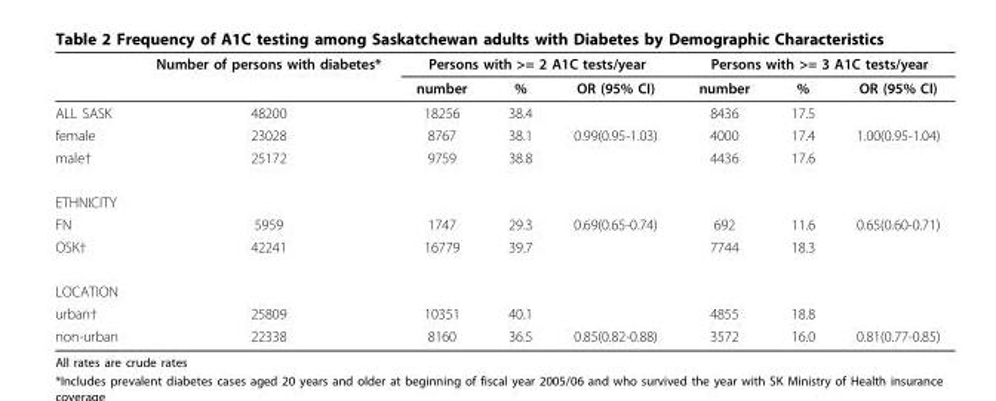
<table><thead><tr><td rowspan="2"></td><td rowspan="2">Number of persons with diabetes*</td><td colspan="3">Persons with &gt;= 2 A1C tests/year</td><td colspan="3">Persons with &gt;= 3 A1C tests/year</td></tr><tr><td>number</td><td>%</td><td>OR (95% CI)</td><td>number</td><td>%</td><td>OR (95% CI)</td></tr></thead><tbody><tr><td>ALL SASK</td><td>48200</td><td>18256</td><td>38.4</td><td></td><td>8436</td><td>17.5</td><td></td></tr><tr><td>female</td><td>23028</td><td>8767</td><td>38.1</td><td>0.99(0.95-1.03)</td><td>4000</td><td>17.4</td><td>1.00(0.95-1.04)</td></tr><tr><td>male†</td><td>25172</td><td>9759</td><td>38.8</td><td></td><td>4436</td><td>17.6</td><td></td></tr><tr><td colspan="8">ETHNICITY</td></tr><tr><td>FN</td><td>5959</td><td>1747</td><td>29.3</td><td>0.69(0.65-0.74)</td><td>692</td><td>11.6</td><td>0.65(0.60-0.71)</td></tr><tr><td>OSK†</td><td>42241</td><td>16779</td><td>39.7</td><td></td><td>7744</td><td>18.3</td><td></td></tr><tr><td colspan="8">LOCATION</td></tr><tr><td>urban†</td><td>25809</td><td>10351</td><td>40.1</td><td></td><td>4855</td><td>18.8</td><td></td></tr><tr><td>non-urban</td><td>22338</td><td>8160</td><td>36.5</td><td>0.85(0.82-0.88)</td><td>3572</td><td>16.0</td><td>0.81(0.77-0.85)</td></tr></tbody></table>